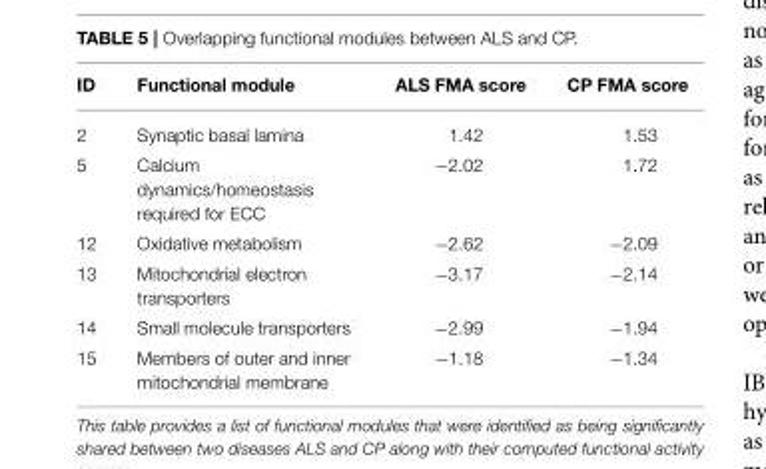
<table><thead><tr><td>ID</td><td>Functional module</td><td>ALS FMA score</td><td>CP FMA score</td></tr></thead><tbody><tr><td>2</td><td>Synaptic basal lamina</td><td>1.42</td><td>1.53</td></tr><tr><td>5</td><td>Calcium dynamics/homeostasis required for ECC</td><td>−2.02</td><td>1.72</td></tr><tr><td>12</td><td>Oxidative metabolism</td><td>−2.62</td><td>−2.09</td></tr><tr><td>13</td><td>Mitochondrial electron transporters</td><td>−3.17</td><td>−2.14</td></tr><tr><td>14</td><td>Small molecule transporters</td><td>−2.99</td><td>−1.94</td></tr><tr><td>15</td><td>Members of outer and inner mitochondrial membrane</td><td>−1.18</td><td>−1.34</td></tr></tbody></table>